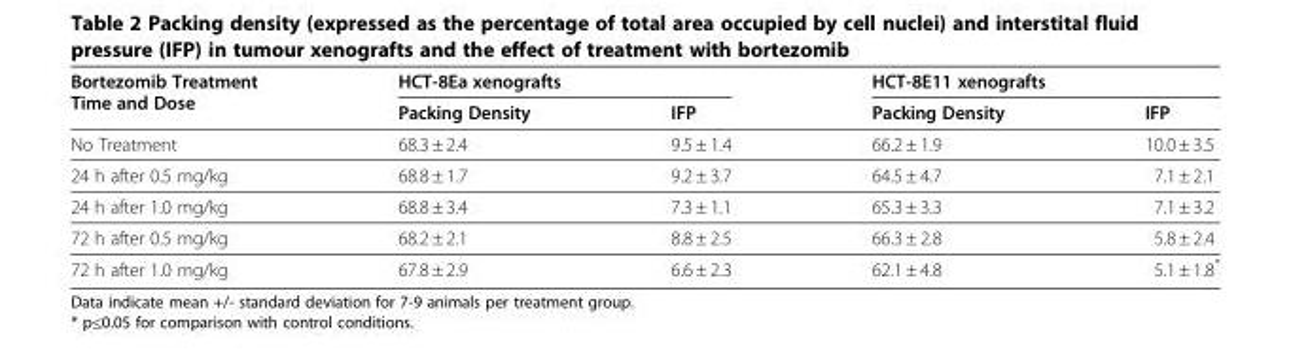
<table><thead><tr><td rowspan="2">Bortezomib Treatment Time and Dose</td><td colspan="2">HCT-8Ea xenografts</td><td colspan="2">HCT-8E11 xenografts</td></tr><tr><td>Packing Density</td><td>IFP</td><td>Packing Density</td><td>IFP</td></tr></thead><tbody><tr><td>No Treatment</td><td>68.3 ± 2.4</td><td>9.5 ± 1.4</td><td>66.2 ± 1.9</td><td>10.0 ± 3.5</td></tr><tr><td>24 h after 0.5 mg/kg</td><td>68.8 ± 1.7</td><td>9.2 ± 3.7</td><td>64.5 ± 4.7</td><td>7.1 ± 2.1</td></tr><tr><td>24 h after 1.0 mg/kg</td><td>68.8 ± 3.4</td><td>7.3 ± 1.1</td><td>65.3 ± 3.3</td><td>7.1 ± 3.2</td></tr><tr><td>72 h after 0.5 mg/kg</td><td>68.2 ± 2.1</td><td>8.8 ± 2.5</td><td>66.3 ± 2.8</td><td>5.8 ± 2.4</td></tr><tr><td>72 h after 1.0 mg/kg</td><td>67.8 ± 2.9</td><td>6.6 ± 2.3</td><td>62.1 ± 4.8</td><td>5.1 ± 1.8*</td></tr></tbody></table>